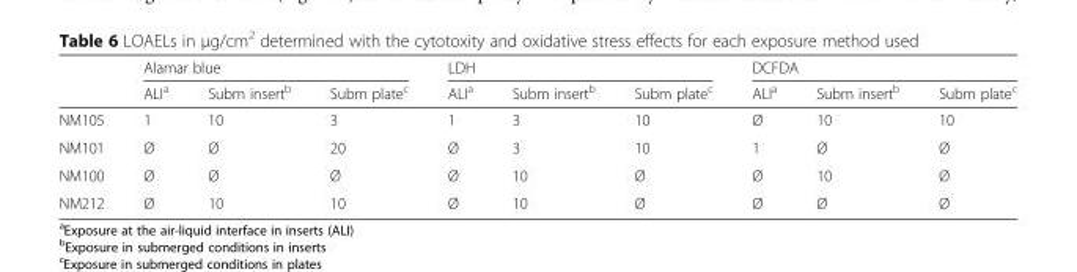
<table><thead><tr><td rowspan="2"></td><td colspan="3">Alamar blue</td><td colspan="3">LDH</td><td colspan="3">DCFDA</td></tr><tr><td>ALI<sup>a</sup></td><td>Subm insert<sup>b</sup></td><td>Subm plate<sup>c</sup></td><td>ALI<sup>a</sup></td><td>Subm insert<sup>b</sup></td><td>Subm plate<sup>c</sup></td><td>ALI<sup>a</sup></td><td>Subm insert<sup>b</sup></td><td>Subm plate<sup>c</sup></td></tr></thead><tbody><tr><td>NM105</td><td>1</td><td>10</td><td>3</td><td>1</td><td>3</td><td>10</td><td>Ø</td><td>10</td><td>10</td></tr><tr><td>NM101</td><td>Ø</td><td>Ø</td><td>20</td><td>Ø</td><td>3</td><td>10</td><td>1</td><td>Ø</td><td>Ø</td></tr><tr><td>NM100</td><td>Ø</td><td>Ø</td><td>Ø</td><td>Ø</td><td>10</td><td>Ø</td><td>Ø</td><td>10</td><td>Ø</td></tr><tr><td>NM212</td><td>Ø</td><td>10</td><td>10</td><td>Ø</td><td>10</td><td>Ø</td><td>Ø</td><td>Ø</td><td>Ø</td></tr></tbody></table>